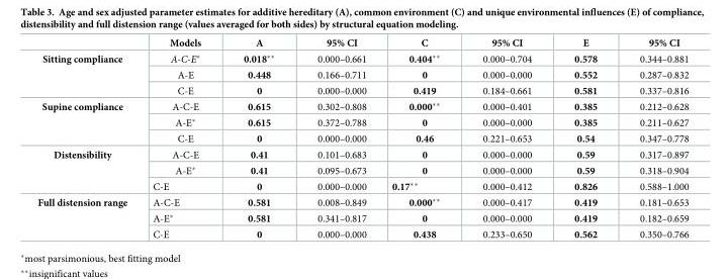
<table><thead><tr><td></td><td>Models</td><td>A</td><td>95% CI</td><td>C</td><td>95% CI</td><td>E</td><td>95% CI</td></tr></thead><tbody><tr><td rowspan="3">Sitting compliance</td><td>A-C-E*</td><td>0.018**</td><td>0.000–0.661</td><td>0.404**</td><td>0.000–0.704</td><td>0.578</td><td>0.344–0.881</td></tr><tr><td>A-E</td><td>0.448</td><td>0.166–0.711</td><td>0</td><td>0.000–0.000</td><td>0.552</td><td>0.287–0.832</td></tr><tr><td>C-E</td><td>0</td><td>0.000–0.000</td><td>0.419</td><td>0.184–0.661</td><td>0.581</td><td>0.337–0.816</td></tr><tr><td rowspan="3">Supine compliance</td><td>A-C-E</td><td>0.615</td><td>0.302–0.808</td><td>0.000**</td><td>0.000–0.401</td><td>0.385</td><td>0.212–0.628</td></tr><tr><td>A-E*</td><td>0.615</td><td>0.372–0.788</td><td>0</td><td>0.000–0.000</td><td>0.385</td><td>0.211–0.627</td></tr><tr><td>C-E</td><td>0</td><td>0.000–0.000</td><td>0.46</td><td>0.221–0.653</td><td>0.54</td><td>0.347–0.778</td></tr><tr><td rowspan="3">Distensibility</td><td>A-C-E</td><td>0.41</td><td>0.101–0.683</td><td>0</td><td>0.000–0.000</td><td>0.59</td><td>0.317–0.897</td></tr><tr><td>A-E*</td><td>0.41</td><td>0.095–0.673</td><td>0</td><td>0.000–0.000</td><td>0.59</td><td>0.318–0.904</td></tr><tr><td>C-E</td><td>0</td><td>0.000–0.000</td><td>0.17**</td><td>0.000–0.412</td><td>0.826</td><td>0.588–1.000</td></tr><tr><td rowspan="3">Full distension range</td><td>A-C-E</td><td>0.581</td><td>0.008–0.849</td><td>0.000**</td><td>0.000–0.417</td><td>0.419</td><td>0.181–0.653</td></tr><tr><td>A-E*</td><td>0.581</td><td>0.341–0.817</td><td>0</td><td>0.000–0.000</td><td>0.419</td><td>0.182–0.659</td></tr><tr><td>C-E</td><td>0</td><td>0.000–0.000</td><td>0.438</td><td>0.233–0.650</td><td>0.562</td><td>0.350–0.766</td></tr></tbody></table>